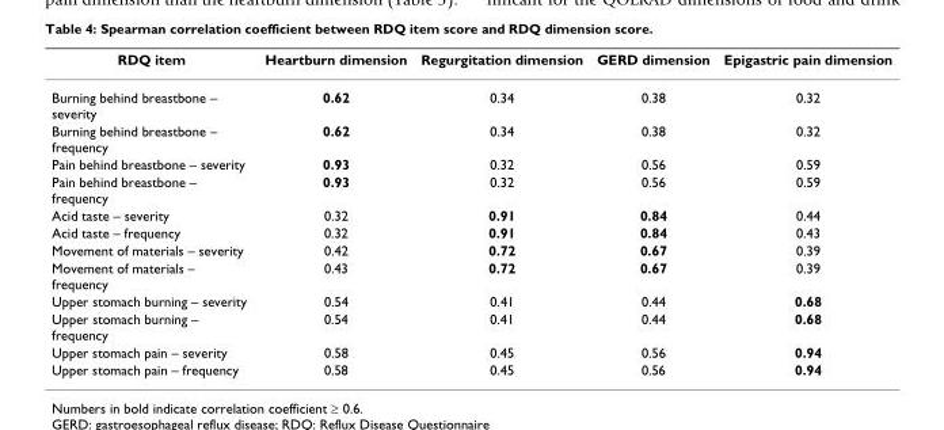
<table><thead><tr><td>RDQ item</td><td>Heartburn dimension</td><td>Regurgitation dimension</td><td>GERD dimension</td><td>Epigastric pain dimension</td></tr></thead><tbody><tr><td>Burning behind breastbone – severity</td><td>0.62</td><td>0.34</td><td>0.38</td><td>0.32</td></tr><tr><td>Burning behind breastbone – frequency</td><td>0.62</td><td>0.34</td><td>0.38</td><td>0.32</td></tr><tr><td>Pain behind breastbone – severity</td><td>0.93</td><td>0.32</td><td>0.56</td><td>0.59</td></tr><tr><td>Pain behind breastbone – frequency</td><td>0.93</td><td>0.32</td><td>0.56</td><td>0.59</td></tr><tr><td>Acid taste – severity</td><td>0.32</td><td>0.91</td><td>0.84</td><td>0.44</td></tr><tr><td>Acid taste – frequency</td><td>0.32</td><td>0.91</td><td>0.84</td><td>0.43</td></tr><tr><td>Movement of materials – severity</td><td>0.42</td><td>0.72</td><td>0.67</td><td>0.39</td></tr><tr><td>Movement of materials – frequency</td><td>0.43</td><td>0.72</td><td>0.67</td><td>0.39</td></tr><tr><td>Upper stomach burning – severity</td><td>0.54</td><td>0.41</td><td>0.44</td><td>0.68</td></tr><tr><td>Upper stomach burning – frequency</td><td>0.54</td><td>0.41</td><td>0.44</td><td>0.68</td></tr><tr><td>Upper stomach pain – severity</td><td>0.58</td><td>0.45</td><td>0.56</td><td>0.94</td></tr><tr><td>Upper stomach pain – frequency</td><td>0.58</td><td>0.45</td><td>0.56</td><td>0.94</td></tr></tbody></table>